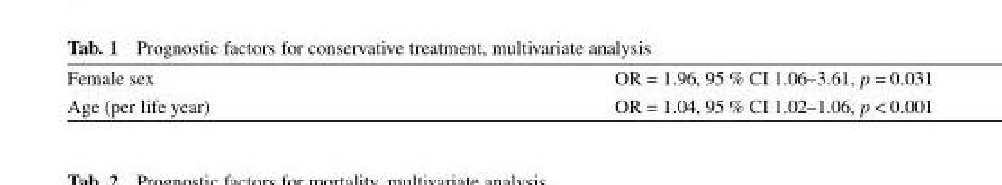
<table><tbody><tr><td>Female sex</td><td>OR = 1.96, 95 % CI 1.06–3.61, p = 0.031</td></tr><tr><td>Age (per life year)</td><td>OR = 1.04, 95 % CI 1.02–1.06, p &lt; 0.001</td></tr></tbody></table>